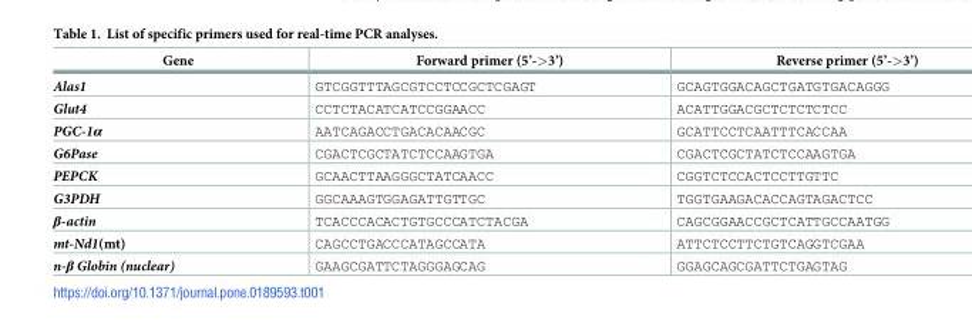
<table><thead><tr><td>Gene</td><td>Forward primer (5’-&gt;3’)</td><td>Reverse primer (5’-&gt;3’)</td></tr></thead><tbody><tr><td>Alas1</td><td>GTCGGTTTAGCGTCCTCCGCTCGAGT</td><td>GCAGTGGACAGCTGATGTGACAGGG</td></tr><tr><td>Glut4</td><td>CCTCTACATCATCCGGAACC</td><td>ACATTGGACGCTCTCTCTCC</td></tr><tr><td>PGC-1α</td><td>AATCAGACCTGACACAACGC</td><td>GCATTCCTCAATTTCACCAA</td></tr><tr><td>G6Pase</td><td>CGACTCGCTATCTCCAAGTGA</td><td>CGACTCGCTATCTCCAAGTGA</td></tr><tr><td>PEPCK</td><td>GCAACTTAAGGGCTATCAACC</td><td>CGGTCTCCACTCCTTGTTC</td></tr><tr><td>G3PDH</td><td>GGCAAAGTGGAGATTGTTGC</td><td>TGGTGAAGACACCAGTAGACTCC</td></tr><tr><td>β-actin</td><td>TCACCCACACTGTGCCCATCTACGA</td><td>CAGCGGAACCGCTCATTGCCAATGG</td></tr><tr><td>mt-Nd1(mt)</td><td>CAGCCTGACCCATAGCCATA</td><td>ATTCTCCTTCTGTCAGGTCGAA</td></tr><tr><td>n-β Globin (nuclear)</td><td>GAAGCGATTCTAGGGAGCAG</td><td>GGAGCAGCGATTCTGAGTAG</td></tr></tbody></table>